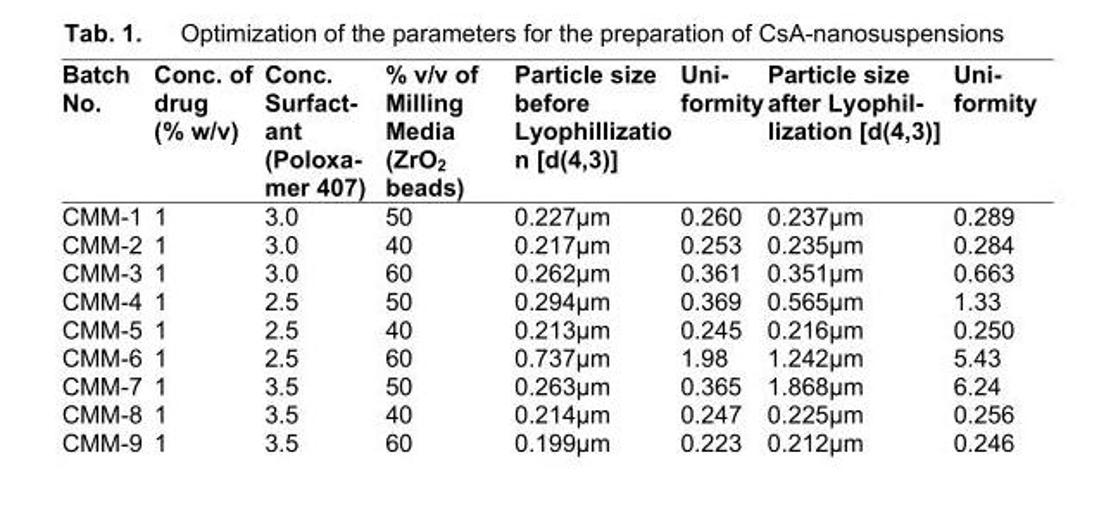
<table><thead><tr><td>Batch No.</td><td>Conc. of drug (% w/v)</td><td>Conc. Surfact- ant (Poloxa- mer 407)</td><td>% v/v of Milling Media (ZrO<sub>2</sub> beads)</td><td>Particle size before Lyophillizatio n [d(4,3)]</td><td>Uni- formity</td><td>Particle size after Lyophil- lization [d(4,3)]</td><td>Uni- formity</td></tr></thead><tbody><tr><td>CMM-1</td><td>1</td><td>3.0</td><td>50</td><td>0.227µm</td><td>0.260</td><td>0.237µm</td><td>0.289</td></tr><tr><td>CMM-2</td><td>1</td><td>3.0</td><td>40</td><td>0.217µm</td><td>0.253</td><td>0.235µm</td><td>0.284</td></tr><tr><td>CMM-3</td><td>1</td><td>3.0</td><td>60</td><td>0.262µm</td><td>0.361</td><td>0.351µm</td><td>0.663</td></tr><tr><td>CMM-4</td><td>1</td><td>2.5</td><td>50</td><td>0.294µm</td><td>0.369</td><td>0.565µm</td><td>1.33</td></tr><tr><td>CMM-5</td><td>1</td><td>2.5</td><td>40</td><td>0.213µm</td><td>0.245</td><td>0.216µm</td><td>0.250</td></tr><tr><td>CMM-6</td><td>1</td><td>2.5</td><td>60</td><td>0.737µm</td><td>1.98</td><td>1.242µm</td><td>5.43</td></tr><tr><td>CMM-7</td><td>1</td><td>3.5</td><td>50</td><td>0.263µm</td><td>0.365</td><td>1.868µm</td><td>6.24</td></tr><tr><td>CMM-8</td><td>1</td><td>3.5</td><td>40</td><td>0.214µm</td><td>0.247</td><td>0.225µm</td><td>0.256</td></tr><tr><td>CMM-9</td><td>1</td><td>3.5</td><td>60</td><td>0.199µm</td><td>0.223</td><td>0.212µm</td><td>0.246</td></tr></tbody></table>